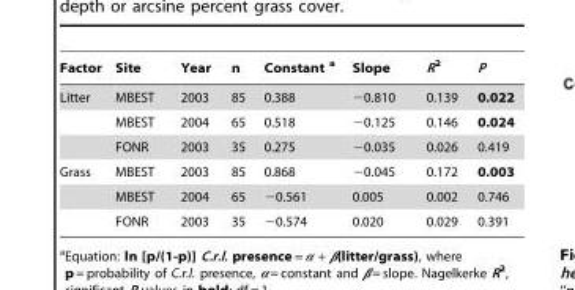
<table><thead><tr><td>Factor</td><td>Site</td><td>Year</td><td>n</td><td>Constant a</td><td>Slope</td><td>R<sup>2</sup></td><td>P</td></tr></thead><tbody><tr><td rowspan="3">Litter</td><td>MBEST</td><td>2003</td><td>85</td><td>0.388</td><td>−0.810</td><td>0.139</td><td>0.022</td></tr><tr><td>MBEST</td><td>2004</td><td>65</td><td>0.518</td><td>−0.125</td><td>0.146</td><td>0.024</td></tr><tr><td>FONR</td><td>2003</td><td>35</td><td>0.275</td><td>−0.035</td><td>0.026</td><td>0.419</td></tr><tr><td rowspan="3">Grass</td><td>MBEST</td><td>2003</td><td>85</td><td>0.868</td><td>−0.045</td><td>0.172</td><td>0.003</td></tr><tr><td>MBEST</td><td>2004</td><td>65</td><td>−0.561</td><td>0.005</td><td>0.002</td><td>0.746</td></tr><tr><td>FONR</td><td>2003</td><td>35</td><td>−0.574</td><td>0.020</td><td>0.029</td><td>0.391</td></tr></tbody></table>